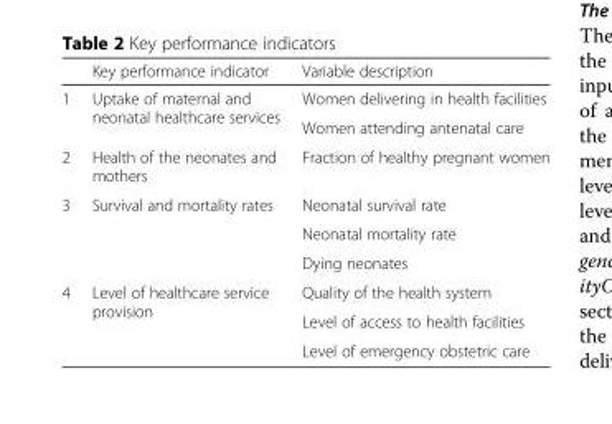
<table><thead><tr><td></td><td>Key performance indicator</td><td>Variable description</td></tr></thead><tbody><tr><td rowspan="2">1</td><td rowspan="2">Uptake of maternal and neonatal healthcare services</td><td>Women delivering in health facilities</td></tr><tr><td>Women attending antenatal care</td></tr><tr><td>2</td><td>Health of the neonates and mothers</td><td>Fraction of healthy pregnant women</td></tr><tr><td rowspan="3">3</td><td rowspan="3">Survival and mortality rates</td><td>Neonatal survival rate</td></tr><tr><td>Neonatal mortality rate</td></tr><tr><td>Dying neonates</td></tr><tr><td rowspan="3">4</td><td rowspan="3">Level of healthcare service provision</td><td>Quality of the health system</td></tr><tr><td>Level of access to health facilities</td></tr><tr><td>Level of emergency obstetric care</td></tr></tbody></table>